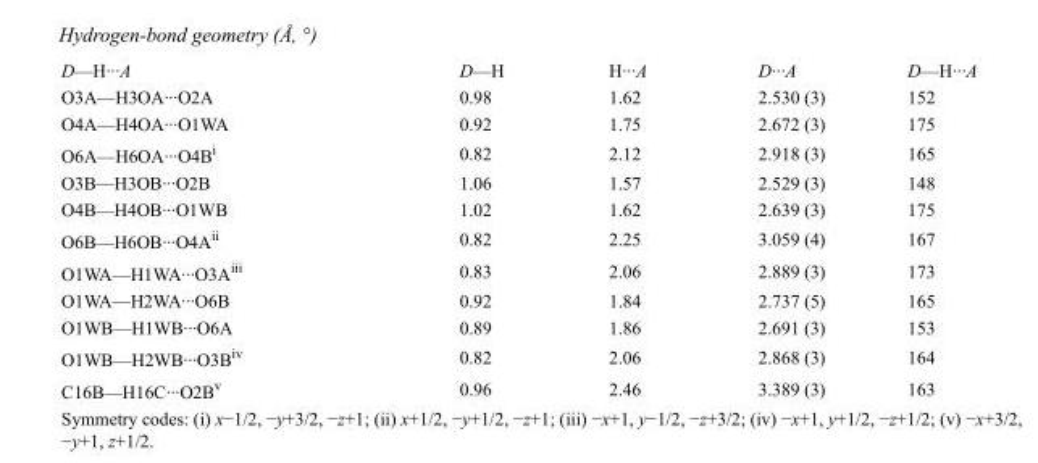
<table><tbody><tr><td>D—H···A</td><td>D—H</td><td>H···A</td><td>D···A</td><td>D—H···A</td></tr><tr><td>O3A—H3OA···O2A</td><td>0.98</td><td>1.62</td><td>2.530 (3)</td><td>152</td></tr><tr><td>O4A—H4OA···O1WA</td><td>0.92</td><td>1.75</td><td>2.672 (3)</td><td>175</td></tr><tr><td>O6A—H6OA···O4B<sup>i</sup></td><td>0.82</td><td>2.12</td><td>2.918 (3)</td><td>165</td></tr><tr><td>O3B—H3OB···O2B</td><td>1.06</td><td>1.57</td><td>2.529 (3)</td><td>148</td></tr><tr><td>O4B—H4OB···O1WB</td><td>1.02</td><td>1.62</td><td>2.639 (3)</td><td>175</td></tr><tr><td>O6B—H6OB···O4A<sup>ii</sup></td><td>0.82</td><td>2.25</td><td>3.059 (4)</td><td>167</td></tr><tr><td>O1WA—H1WA···O3A<sup>iii</sup></td><td>0.83</td><td>2.06</td><td>2.889 (3)</td><td>173</td></tr><tr><td>O1WA—H2WA···O6B</td><td>0.92</td><td>1.84</td><td>2.737 (5)</td><td>165</td></tr><tr><td>O1WB—H1WB···O6A</td><td>0.89</td><td>1.86</td><td>2.691 (3)</td><td>153</td></tr><tr><td>O1WB—H2WB···O3B<sup>iv</sup></td><td>0.82</td><td>2.06</td><td>2.868 (3)</td><td>164</td></tr><tr><td>C16B—H16C···O2B<sup>v</sup></td><td>0.96</td><td>2.46</td><td>3.389 (3)</td><td>163</td></tr></tbody></table>